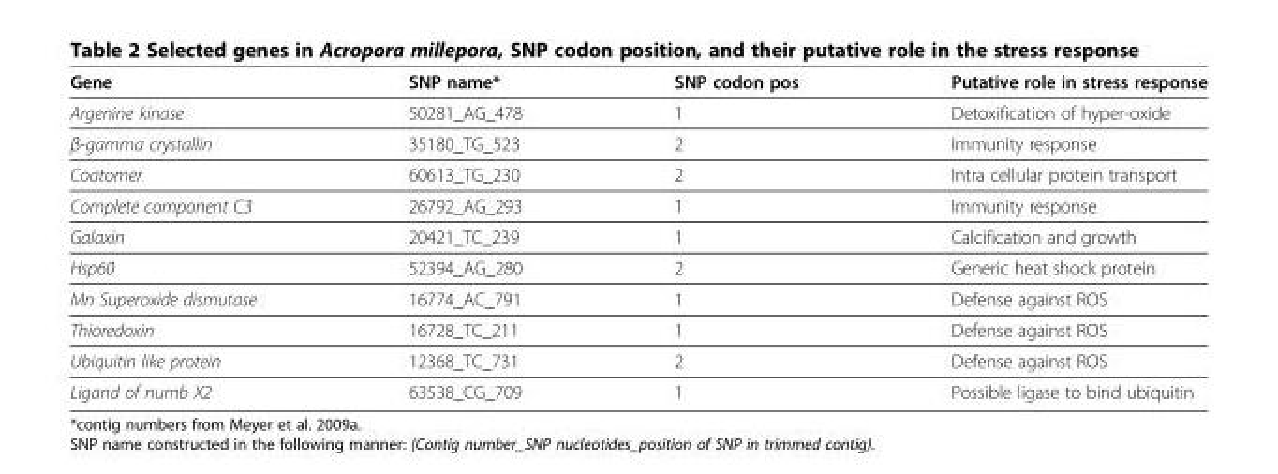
<table><thead><tr><td>Gene</td><td>SNP name*</td><td>SNP codon pos</td><td>Putative role in stress response</td></tr></thead><tbody><tr><td>Argenine kinase</td><td>50281_AG_478</td><td>1</td><td>Detoxification of hyper-oxide</td></tr><tr><td>β-gamma crystallin</td><td>35180_TG_523</td><td>2</td><td>Immunity response</td></tr><tr><td>Coatomer</td><td>60613_TG_230</td><td>2</td><td>Intra cellular protein transport</td></tr><tr><td>Complete component C3</td><td>26792_AG_293</td><td>1</td><td>Immunity response</td></tr><tr><td>Galaxin</td><td>20421_TC_239</td><td>1</td><td>Calcification and growth</td></tr><tr><td>Hsp60</td><td>52394_AG_280</td><td>2</td><td>Generic heat shock protein</td></tr><tr><td>Mn Superoxide dismutase</td><td>16774_AC_791</td><td>1</td><td>Defense against ROS</td></tr><tr><td>Thioredoxin</td><td>16728_TC_211</td><td>1</td><td>Defense against ROS</td></tr><tr><td>Ubiquitin like protein</td><td>12368_TC_731</td><td>2</td><td>Defense against ROS</td></tr><tr><td>Ligand of numb X2</td><td>63538_CG_709</td><td>1</td><td>Possible ligase to bind ubiquitin</td></tr></tbody></table>